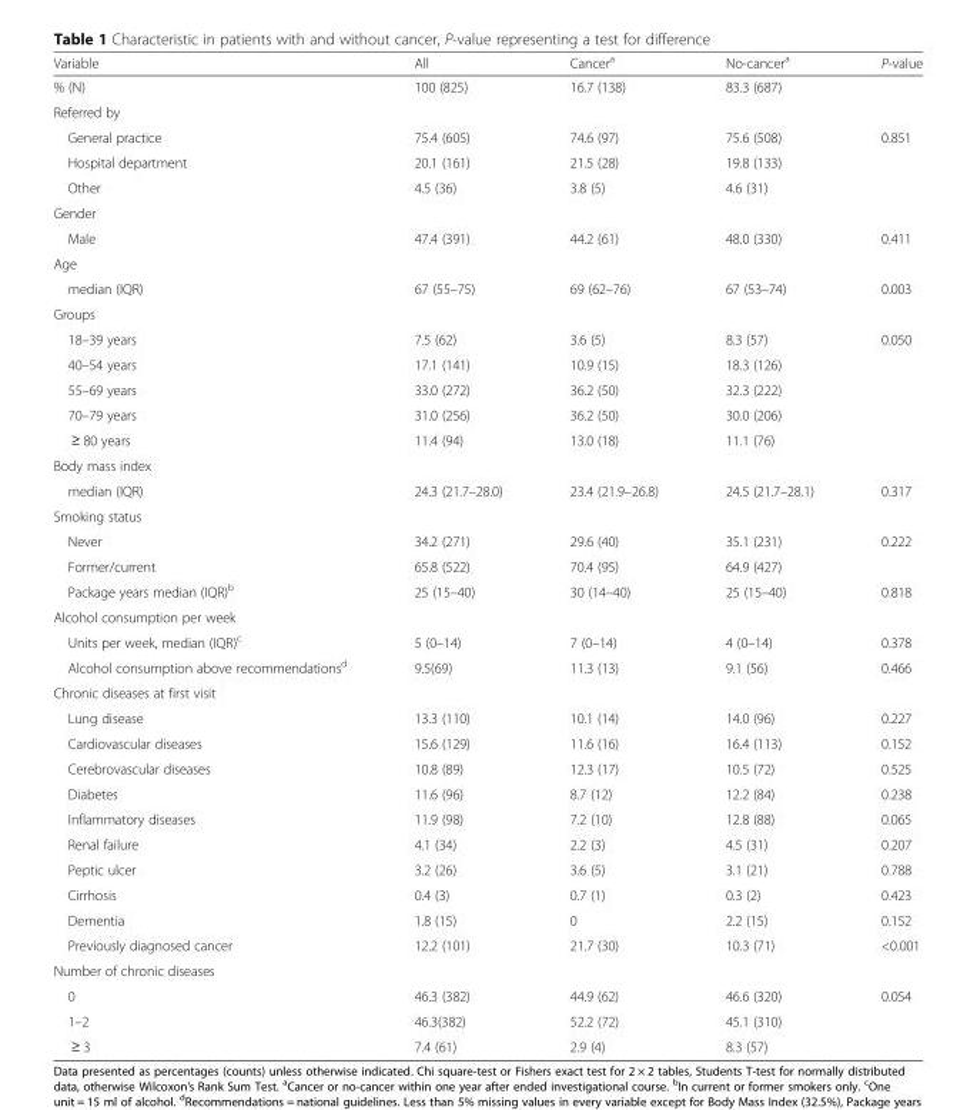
<table><thead><tr><td>Variable</td><td>All</td><td>Cancer<sup>a</sup></td><td>No-cancer<sup>a</sup></td><td>P-value</td></tr></thead><tbody><tr><td>% (N)</td><td>100 (825)</td><td>16.7 (138)</td><td>83.3 (687)</td><td></td></tr><tr><td colspan="5">Referred by</td></tr><tr><td>General practice</td><td>75.4 (605)</td><td>74.6 (97)</td><td>75.6 (508)</td><td>0.851</td></tr><tr><td>Hospital department</td><td>20.1 (161)</td><td>21.5 (28)</td><td>19.8 (133)</td><td></td></tr><tr><td>Other</td><td>4.5 (36)</td><td>3.8 (5)</td><td>4.6 (31)</td><td></td></tr><tr><td colspan="5">Gender</td></tr><tr><td>Male</td><td>47.4 (391)</td><td>44.2 (61)</td><td>48.0 (330)</td><td>0.411</td></tr><tr><td colspan="5">Age</td></tr><tr><td>median (IQR)</td><td>67 (55–75)</td><td>69 (62–76)</td><td>67 (53–74)</td><td>0.003</td></tr><tr><td colspan="5">Groups</td></tr><tr><td>18–39 years</td><td>7.5 (62)</td><td>3.6 (5)</td><td>8.3 (57)</td><td>0.050</td></tr><tr><td>40–54 years</td><td>17.1 (141)</td><td>10.9 (15)</td><td>18.3 (126)</td><td></td></tr><tr><td>55–69 years</td><td>33.0 (272)</td><td>36.2 (50)</td><td>32.3 (222)</td><td></td></tr><tr><td>70–79 years</td><td>31.0 (256)</td><td>36.2 (50)</td><td>30.0 (206)</td><td></td></tr><tr><td>≥ 80 years</td><td>11.4 (94)</td><td>13.0 (18)</td><td>11.1 (76)</td><td></td></tr><tr><td colspan="5">Body mass index</td></tr><tr><td>median (IQR)</td><td>24.3 (21.7–28.0)</td><td>23.4 (21.9–26.8)</td><td>24.5 (21.7–28.1)</td><td>0.317</td></tr><tr><td colspan="5">Smoking status</td></tr><tr><td>Never</td><td>34.2 (271)</td><td>29.6 (40)</td><td>35.1 (231)</td><td>0.222</td></tr><tr><td>Former/current</td><td>65.8 (522)</td><td>70.4 (95)</td><td>64.9 (427)</td><td></td></tr><tr><td>Package years median (IQR)<sup>b</sup></td><td>25 (15–40)</td><td>30 (14–40)</td><td>25 (15–40)</td><td>0.818</td></tr><tr><td colspan="5">Alcohol consumption per week</td></tr><tr><td>Units per week, median (IQR)<sup>c</sup></td><td>5 (0–14)</td><td>7 (0–14)</td><td>4 (0–14)</td><td>0.378</td></tr><tr><td>Alcohol consumption above recommendations<sup>d</sup></td><td>9.5(69)</td><td>11.3 (13)</td><td>9.1 (56)</td><td>0.466</td></tr><tr><td colspan="5">Chronic diseases at first visit</td></tr><tr><td>Lung disease</td><td>13.3 (110)</td><td>10.1 (14)</td><td>14.0 (96)</td><td>0.227</td></tr><tr><td>Cardiovascular diseases</td><td>15.6 (129)</td><td>11.6 (16)</td><td>16.4 (113)</td><td>0.152</td></tr><tr><td>Cerebrovascular diseases</td><td>10.8 (89)</td><td>12.3 (17)</td><td>10.5 (72)</td><td>0.525</td></tr><tr><td>Diabetes</td><td>11.6 (96)</td><td>8.7 (12)</td><td>12.2 (84)</td><td>0.238</td></tr><tr><td>Inflammatory diseases</td><td>11.9 (98)</td><td>7.2 (10)</td><td>12.8 (88)</td><td>0.065</td></tr><tr><td>Renal failure</td><td>4.1 (34)</td><td>2.2 (3)</td><td>4.5 (31)</td><td>0.207</td></tr><tr><td>Peptic ulcer</td><td>3.2 (26)</td><td>3.6 (5)</td><td>3.1 (21)</td><td>0.788</td></tr><tr><td>Cirrhosis</td><td>0.4 (3)</td><td>0.7 (1)</td><td>0.3 (2)</td><td>0.423</td></tr><tr><td>Dementia</td><td>1.8 (15)</td><td>0</td><td>2.2 (15)</td><td>0.152</td></tr><tr><td>Previously diagnosed cancer</td><td>12.2 (101)</td><td>21.7 (30)</td><td>10.3 (71)</td><td>&lt;0.001</td></tr><tr><td colspan="5">Number of chronic diseases</td></tr><tr><td>0</td><td>46.3 (382)</td><td>44.9 (62)</td><td>46.6 (320)</td><td>0.054</td></tr><tr><td>1–2</td><td>46.3(382)</td><td>52.2 (72)</td><td>45.1 (310)</td><td></td></tr><tr><td>≥ 3</td><td>7.4 (61)</td><td>2.9 (4)</td><td>8.3 (57)</td><td></td></tr></tbody></table>